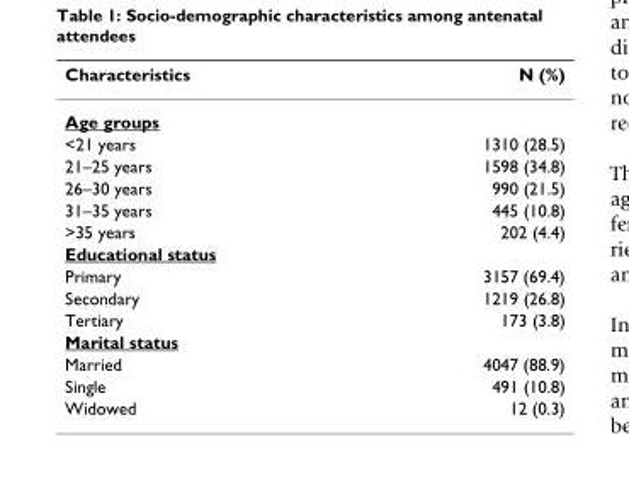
<table><thead><tr><td>Characteristics</td><td>N (%)</td></tr></thead><tbody><tr><td colspan="2">Age groups</td></tr><tr><td>&lt;21 years</td><td>1310 (28.5)</td></tr><tr><td>21–25 years</td><td>1598 (34.8)</td></tr><tr><td>26–30 years</td><td>990 (21.5)</td></tr><tr><td>31–35 years</td><td>445 (10.8)</td></tr><tr><td>&gt;35 years</td><td>202 (4.4)</td></tr><tr><td colspan="2">Educational status</td></tr><tr><td>Primary</td><td>3157 (69.4)</td></tr><tr><td>Secondary</td><td>1219 (26.8)</td></tr><tr><td>Tertiary</td><td>173 (3.8)</td></tr><tr><td colspan="2">Marital status</td></tr><tr><td>Married</td><td>4047 (88.9)</td></tr><tr><td>Single</td><td>491 (10.8)</td></tr><tr><td>Widowed</td><td>12 (0.3)</td></tr></tbody></table>